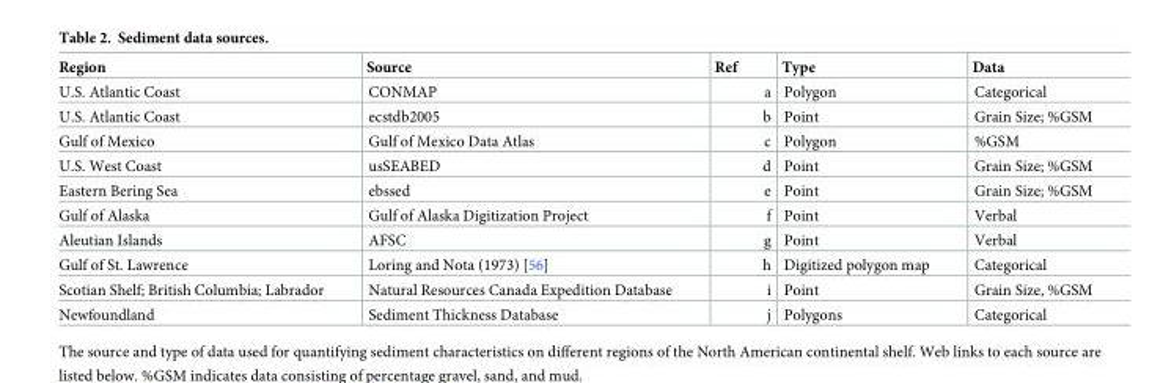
<table><thead><tr><td>Region</td><td>Source</td><td>Ref</td><td>Type</td><td>Data</td></tr></thead><tbody><tr><td>U.S. Atlantic Coast</td><td>CONMAP</td><td>a</td><td>Polygon</td><td>Categorical</td></tr><tr><td>U.S. Atlantic Coast</td><td>ecstdb2005</td><td>b</td><td>Point</td><td>Grain Size; %GSM</td></tr><tr><td>Gulf of Mexico</td><td>Gulf of Mexico Data Atlas</td><td>c</td><td>Polygon</td><td>%GSM</td></tr><tr><td>U.S. West Coast</td><td>usSEABED</td><td>d</td><td>Point</td><td>Grain Size; %GSM</td></tr><tr><td>Eastern Bering Sea</td><td>ebssed</td><td>e</td><td>Point</td><td>Grain Size; %GSM</td></tr><tr><td>Gulf of Alaska</td><td>Gulf of Alaska Digitization Project</td><td>f</td><td>Point</td><td>Verbal</td></tr><tr><td>Aleutian Islands</td><td>AFSC</td><td>g</td><td>Point</td><td>Verbal</td></tr><tr><td>Gulf of St. Lawrence</td><td>Loring and Nota (1973) [56]</td><td>h</td><td>Digitized polygon map</td><td>Categorical</td></tr><tr><td>Scotian Shelf; British Columbia; Labrador</td><td>Natural Resources Canada Expedition Database</td><td>i</td><td>Point</td><td>Grain Size, %GSM</td></tr><tr><td>Newfoundland</td><td>Sediment Thickness Database</td><td>j</td><td>Polygons</td><td>Categorical</td></tr></tbody></table>